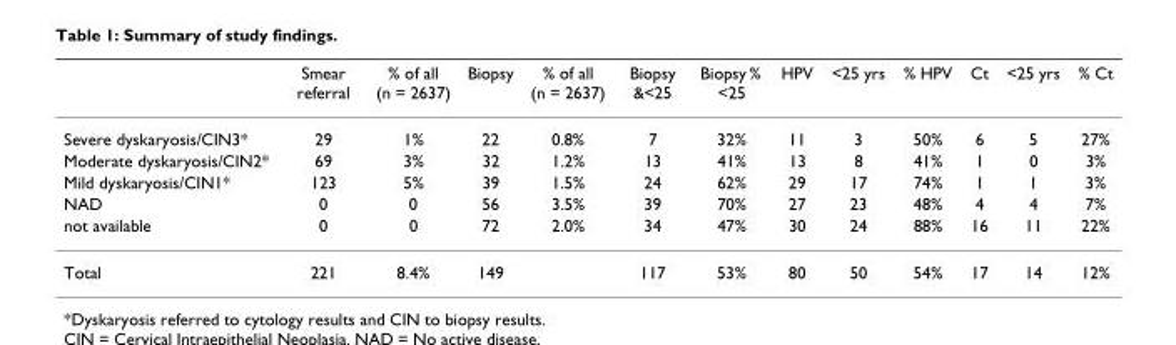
<table><thead><tr><td></td><td>Smear referral</td><td>% of all (n = 2637)</td><td>Biopsy</td><td>% of all (n = 2637)</td><td>Biopsy &amp;&lt;25</td><td>Biopsy % &lt;25</td><td>HPV</td><td>&lt;25 yrs</td><td>% HPV</td><td>Ct</td><td>&lt;25 yrs</td><td>% Ct</td></tr></thead><tbody><tr><td>Severe dyskaryosis/CIN3*</td><td>29</td><td>1%</td><td>22</td><td>0.8%</td><td>7</td><td>32%</td><td>11</td><td>3</td><td>50%</td><td>6</td><td>5</td><td>27%</td></tr><tr><td>Moderate dyskaryosis/CIN2*</td><td>69</td><td>3%</td><td>32</td><td>1.2%</td><td>13</td><td>41%</td><td>13</td><td>8</td><td>41%</td><td>1</td><td>0</td><td>3%</td></tr><tr><td>Mild dyskaryosis/CIN1*</td><td>123</td><td>5%</td><td>39</td><td>1.5%</td><td>24</td><td>62%</td><td>29</td><td>17</td><td>74%</td><td>1</td><td>1</td><td>3%</td></tr><tr><td>NAD</td><td>0</td><td>0</td><td>56</td><td>3.5%</td><td>39</td><td>70%</td><td>27</td><td>23</td><td>48%</td><td>4</td><td>4</td><td>7%</td></tr><tr><td>not available</td><td>0</td><td>0</td><td>72</td><td>2.0%</td><td>34</td><td>47%</td><td>30</td><td>24</td><td>88%</td><td>16</td><td>11</td><td>22%</td></tr><tr><td>Total</td><td>221</td><td>8.4%</td><td>149</td><td></td><td>117</td><td>53%</td><td>80</td><td>50</td><td>54%</td><td>17</td><td>14</td><td>12%</td></tr></tbody></table>